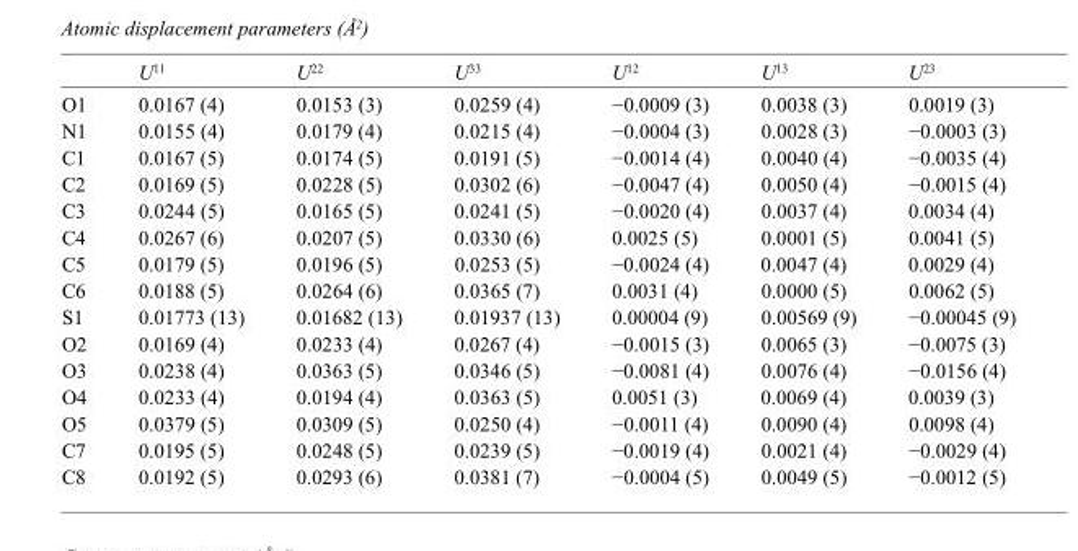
<table><thead><tr><td></td><td>U<sup>11</sup></td><td>U<sup>22</sup></td><td>U<sup>33</sup></td><td>U<sup>12</sup></td><td>U<sup>13</sup></td><td>U<sup>23</sup></td></tr></thead><tbody><tr><td>O1</td><td>0.0167 (4)</td><td>0.0153 (3)</td><td>0.0259 (4)</td><td>−0.0009 (3)</td><td>0.0038 (3)</td><td>0.0019 (3)</td></tr><tr><td>N1</td><td>0.0155 (4)</td><td>0.0179 (4)</td><td>0.0215 (4)</td><td>−0.0004 (3)</td><td>0.0028 (3)</td><td>−0.0003 (3)</td></tr><tr><td>C1</td><td>0.0167 (5)</td><td>0.0174 (5)</td><td>0.0191 (5)</td><td>−0.0014 (4)</td><td>0.0040 (4)</td><td>−0.0035 (4)</td></tr><tr><td>C2</td><td>0.0169 (5)</td><td>0.0228 (5)</td><td>0.0302 (6)</td><td>−0.0047 (4)</td><td>0.0050 (4)</td><td>−0.0015 (4)</td></tr><tr><td>C3</td><td>0.0244 (5)</td><td>0.0165 (5)</td><td>0.0241 (5)</td><td>−0.0020 (4)</td><td>0.0037 (4)</td><td>0.0034 (4)</td></tr><tr><td>C4</td><td>0.0267 (6)</td><td>0.0207 (5)</td><td>0.0330 (6)</td><td>0.0025 (5)</td><td>0.0001 (5)</td><td>0.0041 (5)</td></tr><tr><td>C5</td><td>0.0179 (5)</td><td>0.0196 (5)</td><td>0.0253 (5)</td><td>−0.0024 (4)</td><td>0.0047 (4)</td><td>0.0029 (4)</td></tr><tr><td>C6</td><td>0.0188 (5)</td><td>0.0264 (6)</td><td>0.0365 (7)</td><td>0.0031 (4)</td><td>0.0000 (5)</td><td>0.0062 (5)</td></tr><tr><td>S1</td><td>0.01773 (13)</td><td>0.01682 (13)</td><td>0.01937 (13)</td><td>0.00004 (9)</td><td>0.00569 (9)</td><td>−0.00045 (9)</td></tr><tr><td>O2</td><td>0.0169 (4)</td><td>0.0233 (4)</td><td>0.0267 (4)</td><td>−0.0015 (3)</td><td>0.0065 (3)</td><td>−0.0075 (3)</td></tr><tr><td>O3</td><td>0.0238 (4)</td><td>0.0363 (5)</td><td>0.0346 (5)</td><td>−0.0081 (4)</td><td>0.0076 (4)</td><td>−0.0156 (4)</td></tr><tr><td>O4</td><td>0.0233 (4)</td><td>0.0194 (4)</td><td>0.0363 (5)</td><td>0.0051 (3)</td><td>0.0069 (4)</td><td>0.0039 (3)</td></tr><tr><td>O5</td><td>0.0379 (5)</td><td>0.0309 (5)</td><td>0.0250 (4)</td><td>−0.0011 (4)</td><td>0.0090 (4)</td><td>0.0098 (4)</td></tr><tr><td>C7</td><td>0.0195 (5)</td><td>0.0248 (5)</td><td>0.0239 (5)</td><td>−0.0019 (4)</td><td>0.0021 (4)</td><td>−0.0029 (4)</td></tr><tr><td>C8</td><td>0.0192 (5)</td><td>0.0293 (6)</td><td>0.0381 (7)</td><td>−0.0004 (5)</td><td>0.0049 (5)</td><td>−0.0012 (5)</td></tr></tbody></table>